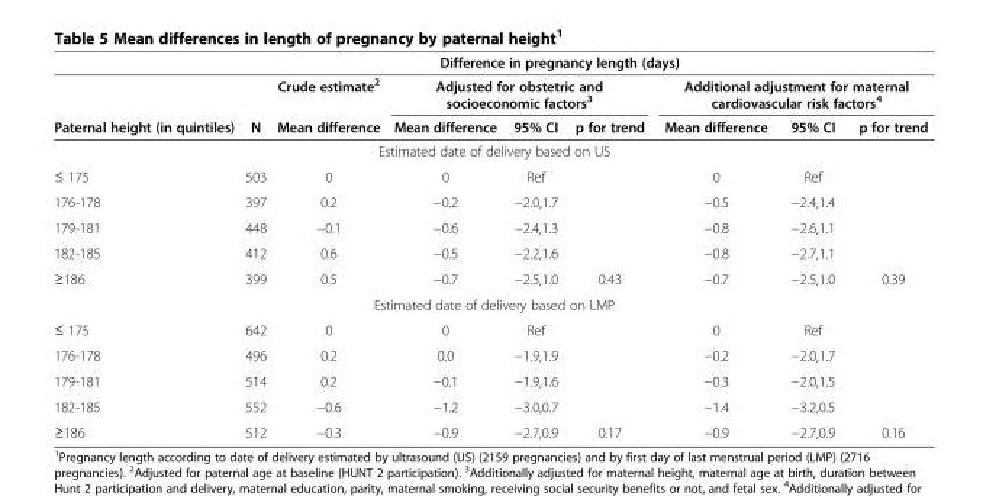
<table><thead><tr><td rowspan="3">Paternal height (in quintiles)</td><td rowspan="3">N</td><td colspan="6">Difference in pregnancy length (days)</td><td></td></tr><tr><td rowspan="2">Crude estimate<sup>2</sup> Mean difference</td><td colspan="3">Adjusted for obstetric and socioeconomic factors<sup>3</sup></td><td colspan="3">Additional adjustment for maternal cardiovascular risk factors<sup>4</sup></td></tr><tr><td>Mean difference</td><td>95% CI</td><td>p for trend</td><td>Mean difference</td><td>95% CI</td><td>p for trend</td></tr></thead><tbody><tr><td colspan="9">Estimated date of delivery based on US</td></tr><tr><td>≤ 175</td><td>503</td><td>0</td><td>0</td><td>Ref</td><td></td><td>0</td><td>Ref</td><td></td></tr><tr><td>176-178</td><td>397</td><td>0.2</td><td>−0.2</td><td>−2.0,1.7</td><td></td><td>−0.5</td><td>−2.4,1.4</td><td></td></tr><tr><td>179-181</td><td>448</td><td>−0.1</td><td>−0.6</td><td>−2.4,1.3</td><td></td><td>−0.8</td><td>−2.6,1.1</td><td></td></tr><tr><td>182-185</td><td>412</td><td>0.6</td><td>−0.5</td><td>−2.2,1.6</td><td></td><td>−0.8</td><td>−2.7,1.1</td><td></td></tr><tr><td>≥186</td><td>399</td><td>0.5</td><td>−0.7</td><td>−2.5,1.0</td><td>0.43</td><td>−0.7</td><td>−2.5,1.0</td><td>0.39</td></tr><tr><td colspan="9">Estimated date of delivery based on LMP</td></tr><tr><td>≤ 175</td><td>642</td><td>0</td><td>0</td><td>Ref</td><td></td><td>0</td><td>Ref</td><td></td></tr><tr><td>176-178</td><td>496</td><td>0.2</td><td>0.0</td><td>−1.9,1.9</td><td></td><td>−0.2</td><td>−2.0,1.7</td><td></td></tr><tr><td>179-181</td><td>514</td><td>0.2</td><td>−0.1</td><td>−1.9,1.6</td><td></td><td>−0.3</td><td>−2.0,1.5</td><td></td></tr><tr><td>182-185</td><td>552</td><td>−0.6</td><td>−1.2</td><td>−3.0,0.7</td><td></td><td>−1.4</td><td>−3.2,0.5</td><td></td></tr><tr><td>≥186</td><td>512</td><td>−0.3</td><td>−0.9</td><td>−2.7,0.9</td><td>0.17</td><td>−0.9</td><td>−2.7,0.9</td><td>0.16</td></tr></tbody></table>